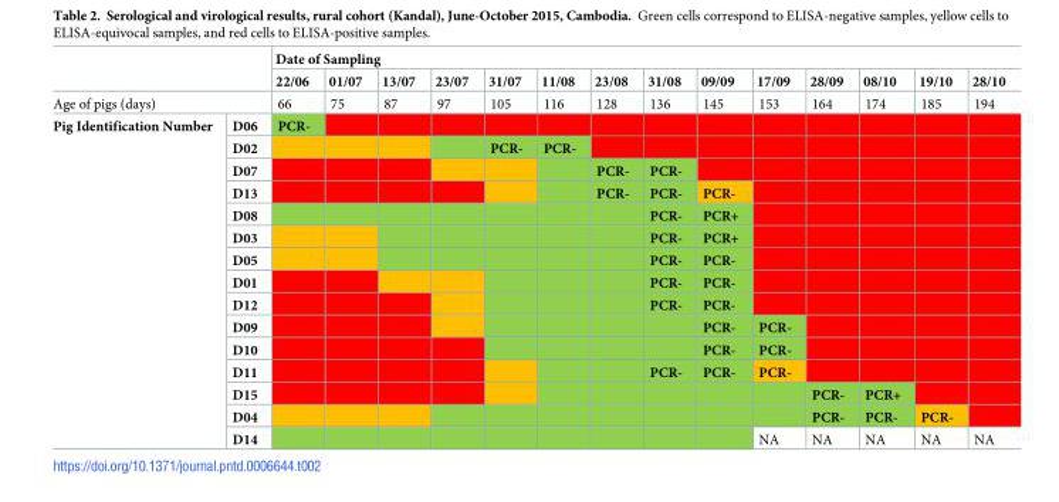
<table><thead><tr><td rowspan="2"></td><td rowspan="2"></td><td colspan="14">Date of Sampling</td></tr><tr><td>22/06</td><td>01/07</td><td>13/07</td><td>23/07</td><td>31/07</td><td>11/08</td><td>23/08</td><td>31/08</td><td>09/09</td><td>17/09</td><td>28/09</td><td>08/10</td><td>19/10</td><td>28/10</td></tr></thead><tbody><tr><td colspan="2">Age of pigs (days)</td><td>66</td><td>75</td><td>87</td><td>97</td><td>105</td><td>116</td><td>128</td><td>136</td><td>145</td><td>153</td><td>164</td><td>174</td><td>185</td><td>194</td></tr><tr><td rowspan="15">Pig Identification Number</td><td>D06</td><td>PCR-</td><td></td><td></td><td></td><td></td><td></td><td></td><td></td><td></td><td></td><td></td><td></td><td></td><td></td></tr><tr><td>D02</td><td></td><td></td><td></td><td></td><td>PCR-</td><td>PCR-</td><td></td><td></td><td></td><td></td><td></td><td></td><td></td><td></td></tr><tr><td>D07</td><td></td><td></td><td></td><td></td><td></td><td></td><td>PCR-</td><td>PCR-</td><td></td><td></td><td></td><td></td><td></td><td></td></tr><tr><td>D13</td><td></td><td></td><td></td><td></td><td></td><td></td><td>PCR-</td><td>PCR-</td><td>PCR-</td><td></td><td></td><td></td><td></td><td></td></tr><tr><td>D08</td><td></td><td></td><td></td><td></td><td></td><td></td><td></td><td>PCR-</td><td>PCR+</td><td></td><td></td><td></td><td></td><td></td></tr><tr><td>D03</td><td></td><td></td><td></td><td></td><td></td><td></td><td></td><td>PCR-</td><td>PCR+</td><td></td><td></td><td></td><td></td><td></td></tr><tr><td>D05</td><td></td><td></td><td></td><td></td><td></td><td></td><td></td><td>PCR-</td><td>PCR-</td><td></td><td></td><td></td><td></td><td></td></tr><tr><td>D01</td><td></td><td></td><td></td><td></td><td></td><td></td><td></td><td>PCR-</td><td>PCR-</td><td></td><td></td><td></td><td></td><td></td></tr><tr><td>D12</td><td></td><td></td><td></td><td></td><td></td><td></td><td></td><td>PCR-</td><td>PCR-</td><td></td><td></td><td></td><td></td><td></td></tr><tr><td>D09</td><td></td><td></td><td></td><td></td><td></td><td></td><td></td><td></td><td>PCR-</td><td>PCR-</td><td></td><td></td><td></td><td></td></tr><tr><td>D10</td><td></td><td></td><td></td><td></td><td></td><td></td><td></td><td></td><td>PCR-</td><td>PCR-</td><td></td><td></td><td></td><td></td></tr><tr><td>D11</td><td></td><td></td><td></td><td></td><td></td><td></td><td></td><td>PCR-</td><td>PCR-</td><td>PCR-</td><td></td><td></td><td></td><td></td></tr><tr><td>D15</td><td></td><td></td><td></td><td></td><td></td><td></td><td></td><td></td><td></td><td></td><td>PCR-</td><td>PCR+</td><td></td><td></td></tr><tr><td>D04</td><td></td><td></td><td></td><td></td><td></td><td></td><td></td><td></td><td></td><td></td><td>PCR-</td><td>PCR-</td><td>PCR-</td><td></td></tr><tr><td>D14</td><td></td><td></td><td></td><td></td><td></td><td></td><td></td><td></td><td></td><td>NA</td><td>NA</td><td>NA</td><td>NA</td><td>NA</td></tr></tbody></table>